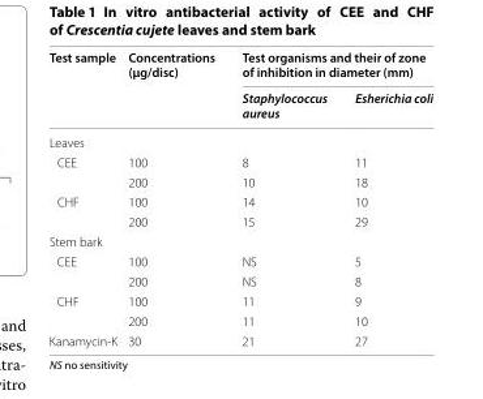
<table><thead><tr><td rowspan="2">Test sample</td><td rowspan="2">Concentrations (µg/disc)</td><td colspan="2">Test organisms and their of zone of inhibition in diameter (mm)</td></tr><tr><td>Staphylococcus aureus</td><td>Esherichia coli</td></tr></thead><tbody><tr><td colspan="4">Leaves</td></tr><tr><td rowspan="2">CEE</td><td>100</td><td>8</td><td>11</td></tr><tr><td>200</td><td>10</td><td>18</td></tr><tr><td rowspan="2">CHF</td><td>100</td><td>14</td><td>10</td></tr><tr><td>200</td><td>15</td><td>29</td></tr><tr><td colspan="4">Stem bark</td></tr><tr><td rowspan="2">CEE</td><td>100</td><td>NS</td><td>5</td></tr><tr><td>200</td><td>NS</td><td>8</td></tr><tr><td rowspan="2">CHF</td><td>100</td><td>11</td><td>9</td></tr><tr><td>200</td><td>11</td><td>10</td></tr><tr><td>Kanamycin-K</td><td>30</td><td>21</td><td>27</td></tr></tbody></table>